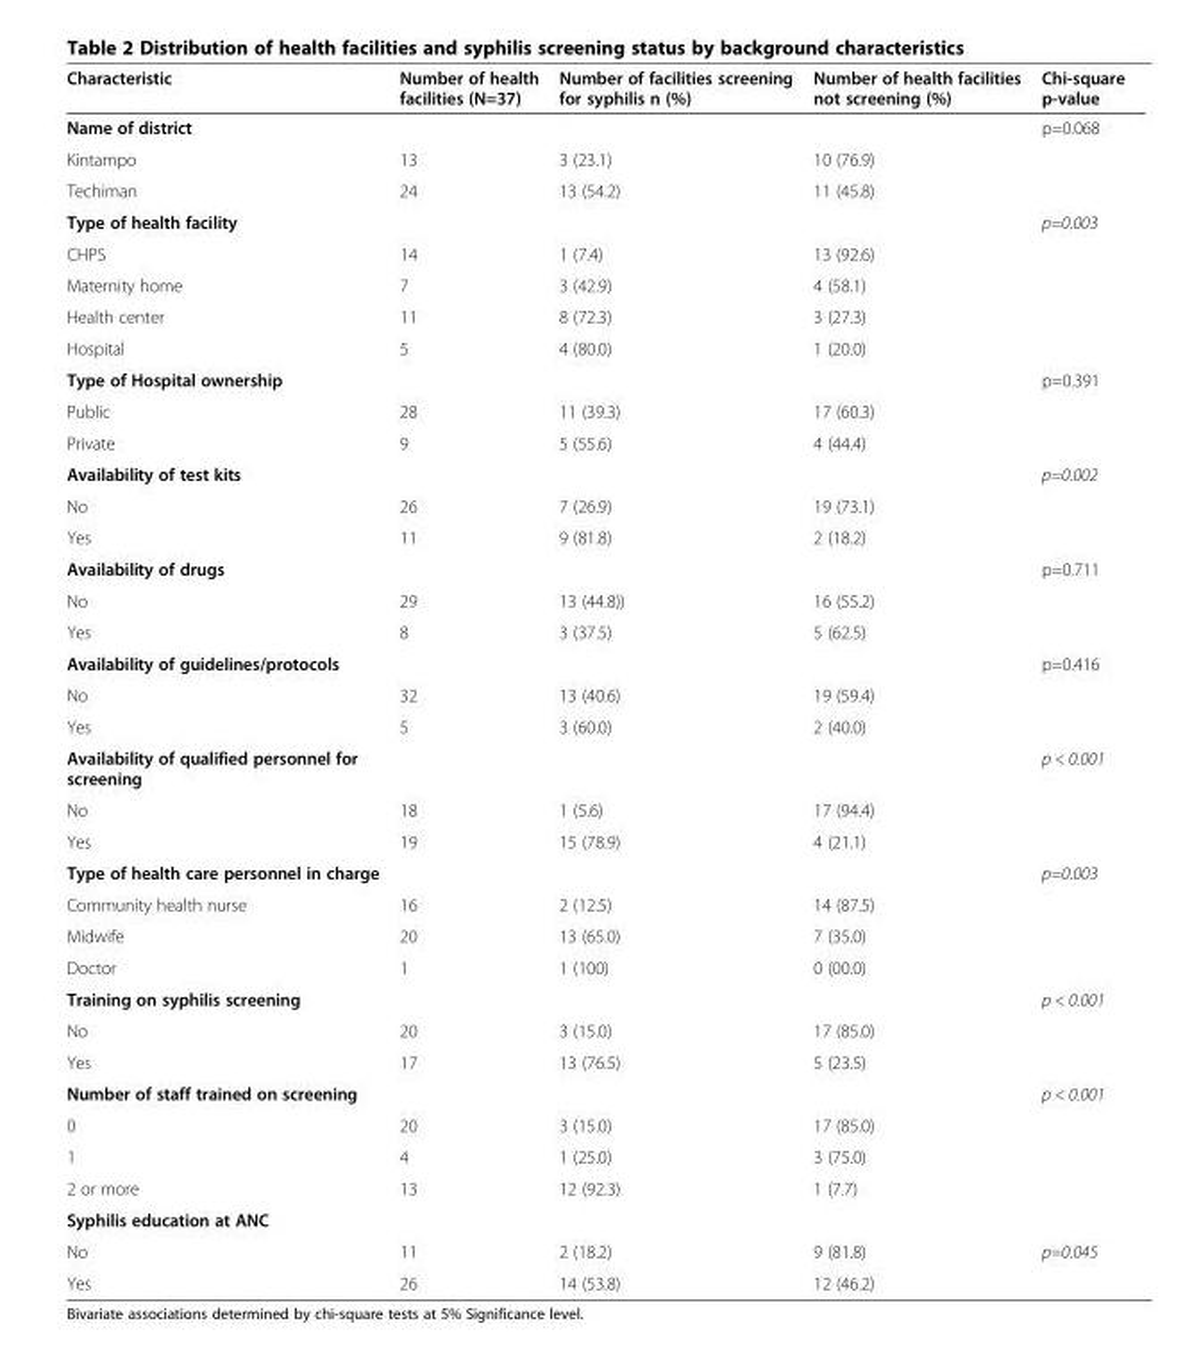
<table><thead><tr><td>Characteristic</td><td>Number of health facilities (N=37)</td><td>Number of facilities screening for syphilis n (%)</td><td>Number of health facilities not screening (%)</td><td>Chi-square p-value</td></tr></thead><tbody><tr><td>Name of district</td><td></td><td></td><td></td><td>p=0.068</td></tr><tr><td>Kintampo</td><td>13</td><td>3 (23.1)</td><td>10 (76.9)</td><td></td></tr><tr><td>Techiman</td><td>24</td><td>13 (54.2)</td><td>11 (45.8)</td><td></td></tr><tr><td>Type of health facility</td><td></td><td></td><td></td><td>p=0.003</td></tr><tr><td>CHPS</td><td>14</td><td>1 (7.4)</td><td>13 (92.6)</td><td></td></tr><tr><td>Maternity home</td><td>7</td><td>3 (42.9)</td><td>4 (58.1)</td><td></td></tr><tr><td>Health center</td><td>11</td><td>8 (72.3)</td><td>3 (27.3)</td><td></td></tr><tr><td>Hospital</td><td>5</td><td>4 (80.0)</td><td>1 (20.0)</td><td></td></tr><tr><td>Type of Hospital ownership</td><td></td><td></td><td></td><td>p=0.391</td></tr><tr><td>Public</td><td>28</td><td>11 (39.3)</td><td>17 (60.3)</td><td></td></tr><tr><td>Private</td><td>9</td><td>5 (55.6)</td><td>4 (44.4)</td><td></td></tr><tr><td>Availability of test kits</td><td></td><td></td><td></td><td>p=0.002</td></tr><tr><td>No</td><td>26</td><td>7 (26.9)</td><td>19 (73.1)</td><td></td></tr><tr><td>Yes</td><td>11</td><td>9 (81.8)</td><td>2 (18.2)</td><td></td></tr><tr><td>Availability of drugs</td><td></td><td></td><td></td><td>p=0.711</td></tr><tr><td>No</td><td>29</td><td>13 (44.8))</td><td>16 (55.2)</td><td></td></tr><tr><td>Yes</td><td>8</td><td>3 (37.5)</td><td>5 (62.5)</td><td></td></tr><tr><td>Availability of guidelines/protocols</td><td></td><td></td><td></td><td>p=0.416</td></tr><tr><td>No</td><td>32</td><td>13 (40.6)</td><td>19 (59.4)</td><td></td></tr><tr><td>Yes</td><td>5</td><td>3 (60.0)</td><td>2 (40.0)</td><td></td></tr><tr><td>Availability of qualified personnel for screening</td><td></td><td></td><td></td><td>p &lt; 0.001</td></tr><tr><td>No</td><td>18</td><td>1 (5.6)</td><td>17 (94.4)</td><td></td></tr><tr><td>Yes</td><td>19</td><td>15 (78.9)</td><td>4 (21.1)</td><td></td></tr><tr><td>Type of health care personnel in charge</td><td></td><td></td><td></td><td>p=0.003</td></tr><tr><td>Community health nurse</td><td>16</td><td>2 (12.5)</td><td>14 (87.5)</td><td></td></tr><tr><td>Midwife</td><td>20</td><td>13 (65.0)</td><td>7 (35.0)</td><td></td></tr><tr><td>Doctor</td><td>1</td><td>1 (100)</td><td>0 (00.0)</td><td></td></tr><tr><td>Training on syphilis screening</td><td></td><td></td><td></td><td>p &lt; 0.001</td></tr><tr><td>No</td><td>20</td><td>3 (15.0)</td><td>17 (85.0)</td><td></td></tr><tr><td>Yes</td><td>17</td><td>13 (76.5)</td><td>5 (23.5)</td><td></td></tr><tr><td>Number of staff trained on screening</td><td></td><td></td><td></td><td>p &lt; 0.001</td></tr><tr><td>0</td><td>20</td><td>3 (15.0)</td><td>17 (85.0)</td><td></td></tr><tr><td>1</td><td>4</td><td>1 (25.0)</td><td>3 (75.0)</td><td></td></tr><tr><td>2 or more</td><td>13</td><td>12 (92.3)</td><td>1 (7.7)</td><td></td></tr><tr><td colspan="5">Syphilis education at ANC</td></tr><tr><td>No</td><td>11</td><td>2 (18.2)</td><td>9 (81.8)</td><td>p=0.045</td></tr><tr><td>Yes</td><td>26</td><td>14 (53.8)</td><td>12 (46.2)</td><td></td></tr></tbody></table>